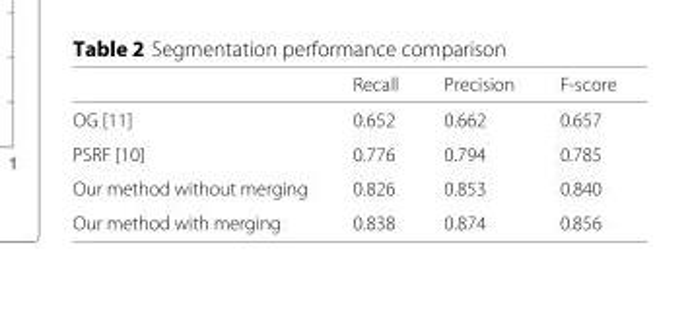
<table><thead><tr><td></td><td>Recall</td><td>Precision</td><td>F-score</td></tr></thead><tbody><tr><td>OG [11]</td><td>0.652</td><td>0.662</td><td>0.657</td></tr><tr><td>PSRF [10]</td><td>0.776</td><td>0.794</td><td>0.785</td></tr><tr><td>Our method without merging</td><td>0.826</td><td>0.853</td><td>0.840</td></tr><tr><td>Our method with merging</td><td>0.838</td><td>0.874</td><td>0.856</td></tr></tbody></table>